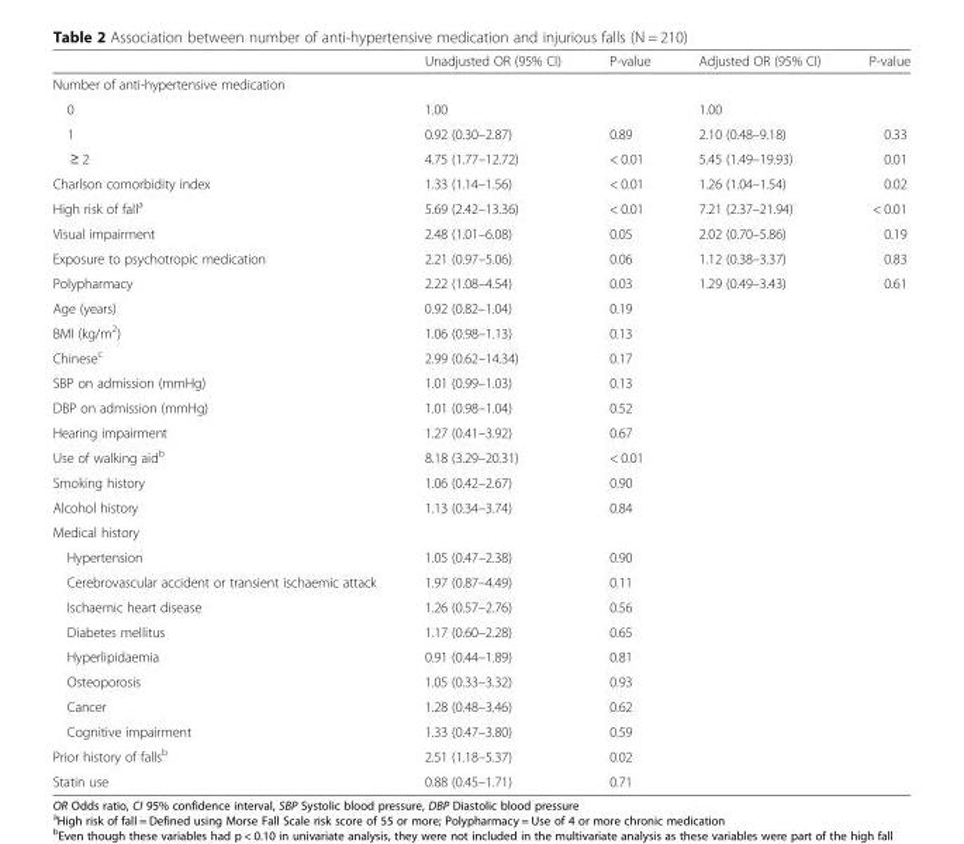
<table><thead><tr><td></td><td>Unadjusted OR (95% CI)</td><td>P-value</td><td>Adjusted OR (95% CI)</td><td>P-value</td></tr></thead><tbody><tr><td colspan="5">Number of anti-hypertensive medication</td></tr><tr><td>0</td><td>1.00</td><td></td><td>1.00</td><td></td></tr><tr><td>1</td><td>0.92 (0.30–2.87)</td><td>0.89</td><td>2.10 (0.48–9.18)</td><td>0.33</td></tr><tr><td>≥ 2</td><td>4.75 (1.77–12.72)</td><td>&lt; 0.01</td><td>5.45 (1.49–19.93)</td><td>0.01</td></tr><tr><td>Charlson comorbidity index</td><td>1.33 (1.14–1.56)</td><td>&lt; 0.01</td><td>1.26 (1.04–1.54)</td><td>0.02</td></tr><tr><td>High risk of fall<sup>a</sup></td><td>5.69 (2.42–13.36)</td><td>&lt; 0.01</td><td>7.21 (2.37–21.94)</td><td>&lt; 0.01</td></tr><tr><td>Visual impairment</td><td>2.48 (1.01–6.08)</td><td>0.05</td><td>2.02 (0.70–5.86)</td><td>0.19</td></tr><tr><td>Exposure to psychotropic medication</td><td>2.21 (0.97–5.06)</td><td>0.06</td><td>1.12 (0.38–3.37)</td><td>0.83</td></tr><tr><td>Polypharmacy</td><td>2.22 (1.08–4.54)</td><td>0.03</td><td>1.29 (0.49–3.43)</td><td>0.61</td></tr><tr><td>Age (years)</td><td>0.92 (0.82–1.04)</td><td>0.19</td><td></td><td></td></tr><tr><td>BMI (kg/m<sup>2</sup>)</td><td>1.06 (0.98–1.13)</td><td>0.13</td><td></td><td></td></tr><tr><td>Chinese<sup>c</sup></td><td>2.99 (0.62–14.34)</td><td>0.17</td><td></td><td></td></tr><tr><td>SBP on admission (mmHg)</td><td>1.01 (0.99–1.03)</td><td>0.13</td><td></td><td></td></tr><tr><td>DBP on admission (mmHg)</td><td>1.01 (0.98–1.04)</td><td>0.52</td><td></td><td></td></tr><tr><td>Hearing impairment</td><td>1.27 (0.41–3.92)</td><td>0.67</td><td></td><td></td></tr><tr><td>Use of walking aid<sup>b</sup></td><td>8.18 (3.29–20.31)</td><td>&lt; 0.01</td><td></td><td></td></tr><tr><td>Smoking history</td><td>1.06 (0.42–2.67)</td><td>0.90</td><td></td><td></td></tr><tr><td>Alcohol history</td><td>1.13 (0.34–3.74)</td><td>0.84</td><td></td><td></td></tr><tr><td colspan="5">Medical history</td></tr><tr><td>Hypertension</td><td>1.05 (0.47–2.38)</td><td>0.90</td><td></td><td></td></tr><tr><td>Cerebrovascular accident or transient ischaemic attack</td><td>1.97 (0.87–4.49)</td><td>0.11</td><td></td><td></td></tr><tr><td>Ischaemic heart disease</td><td>1.26 (0.57–2.76)</td><td>0.56</td><td></td><td></td></tr><tr><td>Diabetes mellitus</td><td>1.17 (0.60–2.28)</td><td>0.65</td><td></td><td></td></tr><tr><td>Hyperlipidaemia</td><td>0.91 (0.44–1.89)</td><td>0.81</td><td></td><td></td></tr><tr><td>Osteoporosis</td><td>1.05 (0.33–3.32)</td><td>0.93</td><td></td><td></td></tr><tr><td>Cancer</td><td>1.28 (0.48–3.46)</td><td>0.62</td><td></td><td></td></tr><tr><td>Cognitive impairment</td><td>1.33 (0.47–3.80)</td><td>0.59</td><td></td><td></td></tr><tr><td>Prior history of falls<sup>b</sup></td><td>2.51 (1.18–5.37)</td><td>0.02</td><td></td><td></td></tr><tr><td>Statin use</td><td>0.88 (0.45–1.71)</td><td>0.71</td><td></td><td></td></tr></tbody></table>